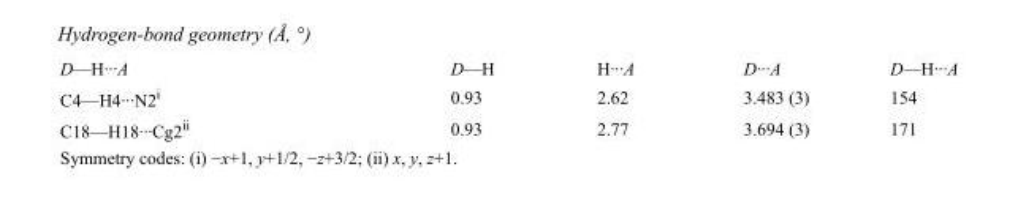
<table><tbody><tr><td>D—H···A</td><td>D—H</td><td>H···A</td><td>D···A</td><td>D—H···A</td></tr><tr><td>C4—H4···N2<sup>i</sup></td><td>0.93</td><td>2.62</td><td>3.483 (3)</td><td>154</td></tr><tr><td>C18—H18···Cg2<sup>ii</sup></td><td>0.93</td><td>2.77</td><td>3.694 (3)</td><td>171</td></tr></tbody></table>